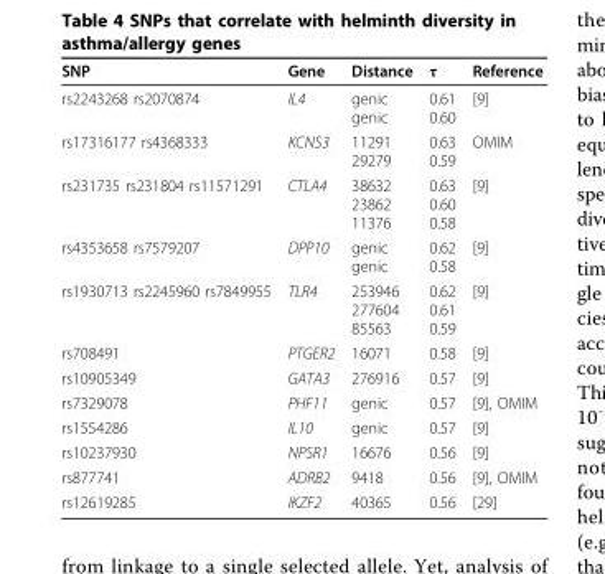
<table><thead><tr><td>SNP</td><td>Gene</td><td>Distance</td><td>τ</td><td>Reference</td></tr></thead><tbody><tr><td>rs2243268 rs2070874</td><td>IL4</td><td>genic genic</td><td>0.61 0.60</td><td>[9]</td></tr><tr><td>rs17316177 rs4368333</td><td>KCNS3</td><td>11291 29279</td><td>0.63 0.59</td><td>OMIM</td></tr><tr><td>rs231735 rs231804 rs11571291</td><td>CTLA4</td><td>38632 23862 11376</td><td>0.63 0.60 0.58</td><td>[9]</td></tr><tr><td>rs4353658 rs7579207</td><td>DPP10</td><td>genic genic</td><td>0.62 0.58</td><td>[9]</td></tr><tr><td>rs1930713 rs2245960 rs7849955</td><td>TLR4</td><td>253946 277604 85563</td><td>0.62 0.61 0.59</td><td>[9]</td></tr><tr><td>rs708491</td><td>PTGER2</td><td>16071</td><td>0.58</td><td>[9]</td></tr><tr><td>rs10905349</td><td>GATA3</td><td>276916</td><td>0.57</td><td>[9]</td></tr><tr><td>rs7329078</td><td>PHF11</td><td>genic</td><td>0.57</td><td>[9], OMIM</td></tr><tr><td>rs1554286</td><td>IL10</td><td>genic</td><td>0.57</td><td>[9]</td></tr><tr><td>rs10237930</td><td>NPSR1</td><td>16676</td><td>0.56</td><td>[9]</td></tr><tr><td>rs877741</td><td>ADRB2</td><td>9418</td><td>0.56</td><td>[9], OMIM</td></tr><tr><td>rs12619285</td><td>IKZF2</td><td>40365</td><td>0.56</td><td>[29]</td></tr></tbody></table>